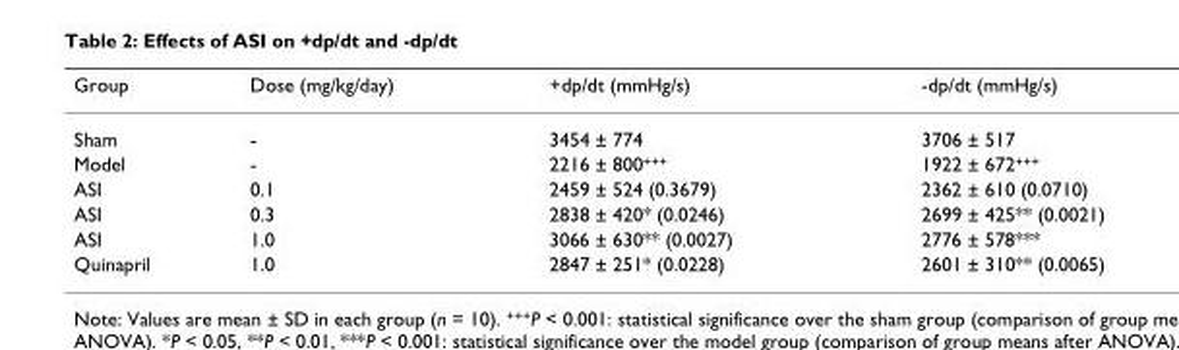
<table><thead><tr><td>Group</td><td>Dose (mg/kg/day)</td><td>+dp/dt (mmHg/s)</td><td>-dp/dt (mmHg/s)</td></tr></thead><tbody><tr><td>Sham</td><td>-</td><td>3454 ± 774</td><td>3706 ± 517</td></tr><tr><td>Model</td><td>-</td><td>2216 ± 800<sup>+++</sup></td><td>1922 ± 672<sup>+++</sup></td></tr><tr><td>ASI</td><td>0.1</td><td>2459 ± 524 (0.3679)</td><td>2362 ± 610 (0.0710)</td></tr><tr><td>ASI</td><td>0.3</td><td>2838 ± 420* (0.0246)</td><td>2699 ± 425** (0.0021)</td></tr><tr><td>ASI</td><td>1.0</td><td>3066 ± 630** (0.0027)</td><td>2776 ± 578***</td></tr><tr><td>Quinapril</td><td>1.0</td><td>2847 ± 251* (0.0228)</td><td>2601 ± 310** (0.0065)</td></tr></tbody></table>